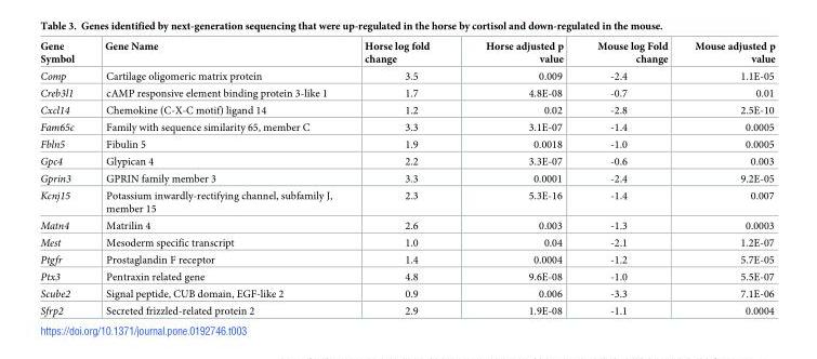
<table><thead><tr><td>Gene Symbol</td><td>Gene Name</td><td>Horse log fold change</td><td>Horse adjusted p value</td><td>Mouse log Fold change</td><td>Mouse adjusted p value</td></tr></thead><tbody><tr><td>Comp</td><td>Cartilage oligomeric matrix protein</td><td>3.5</td><td>0.009</td><td>-2.4</td><td>1.1E-05</td></tr><tr><td>Creb3l1</td><td>cAMP responsive element binding protein 3-like 1</td><td>1.7</td><td>4.8E-08</td><td>-0.7</td><td>0.01</td></tr><tr><td>Cxcl14</td><td>Chemokine (C-X-C motif) ligand 14</td><td>1.2</td><td>0.02</td><td>-2.8</td><td>2.5E-10</td></tr><tr><td>Fam65c</td><td>Family with sequence similarity 65, member C</td><td>3.3</td><td>3.1E-07</td><td>-1.4</td><td>0.0005</td></tr><tr><td>Fbln5</td><td>Fibulin 5</td><td>1.9</td><td>0.0018</td><td>-1.0</td><td>0.0005</td></tr><tr><td>Gpc4</td><td>Glypican 4</td><td>2.2</td><td>3.3E-07</td><td>-0.6</td><td>0.003</td></tr><tr><td>Gprin3</td><td>GPRIN family member 3</td><td>3.3</td><td>0.0001</td><td>-2.4</td><td>9.2E-05</td></tr><tr><td>Kcnj15</td><td>Potassium inwardly-rectifying channel, subfamily J, member 15</td><td>2.3</td><td>5.3E-16</td><td>-1.4</td><td>0.007</td></tr><tr><td>Matn4</td><td>Matrilin 4</td><td>2.6</td><td>0.003</td><td>-1.3</td><td>0.0003</td></tr><tr><td>Mest</td><td>Mesoderm specific transcript</td><td>1.0</td><td>0.04</td><td>-2.1</td><td>1.2E-07</td></tr><tr><td>Ptgfr</td><td>Prostaglandin F receptor</td><td>1.4</td><td>0.0004</td><td>-1.2</td><td>5.7E-05</td></tr><tr><td>Ptx3</td><td>Pentraxin related gene</td><td>4.8</td><td>9.6E-08</td><td>-1.0</td><td>5.5E-07</td></tr><tr><td>Scube2</td><td>Signal peptide, CUB domain, EGF-like 2</td><td>0.9</td><td>0.006</td><td>-3.3</td><td>7.1E-06</td></tr><tr><td>Sfrp2</td><td>Secreted frizzled-related protein 2</td><td>2.9</td><td>1.9E-08</td><td>-1.1</td><td>0.0004</td></tr></tbody></table>